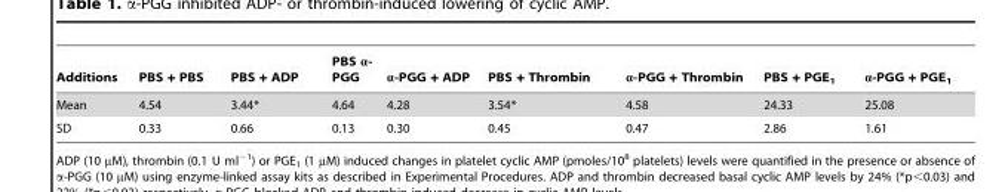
<table><thead><tr><td>Additions</td><td>PBS + PBS</td><td>PBS + ADP</td><td>PBS α- PGG</td><td>α-PGG + ADP</td><td>PBS + Thrombin</td><td>α-PGG + Thrombin</td><td>PBS + PGE<sub>1</sub></td><td>α-PGG + PGE<sub>1</sub></td></tr></thead><tbody><tr><td>Mean</td><td>4.54</td><td>3.44*</td><td>4.64</td><td>4.28</td><td>3.54*</td><td>4.58</td><td>24.33</td><td>25.08</td></tr><tr><td>SD</td><td>0.33</td><td>0.66</td><td>0.13</td><td>0.30</td><td>0.45</td><td>0.47</td><td>2.86</td><td>1.61</td></tr></tbody></table>